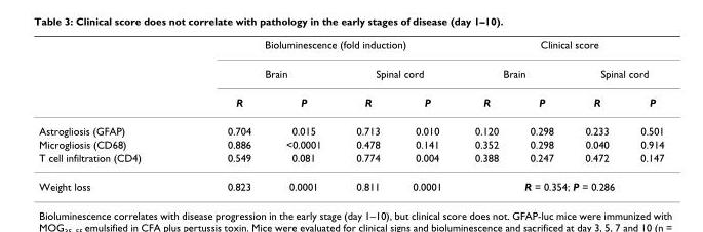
<table><thead><tr><td rowspan="3"></td><td colspan="4">Bioluminescence (fold induction)</td><td colspan="4">Clinical score</td></tr><tr><td colspan="2">Brain</td><td colspan="2">Spinal cord</td><td colspan="2">Brain</td><td colspan="2">Spinal cord</td></tr><tr><td>R</td><td>P</td><td>R</td><td>P</td><td>R</td><td>P</td><td>R</td><td>P</td></tr></thead><tbody><tr><td>Astrogliosis (GFAP)</td><td>0.704</td><td>0.015</td><td>0.713</td><td>0.010</td><td>0.120</td><td>0.298</td><td>0.233</td><td>0.501</td></tr><tr><td>Microgliosis (CD68)</td><td>0.886</td><td>&lt;0.0001</td><td>0.478</td><td>0.141</td><td>0.352</td><td>0.298</td><td>0.040</td><td>0.914</td></tr><tr><td>T cell infiltration (CD4)</td><td>0.549</td><td>0.081</td><td>0.774</td><td>0.004</td><td>0.388</td><td>0.247</td><td>0.472</td><td>0.147</td></tr><tr><td>Weight loss</td><td>0.823</td><td>0.0001</td><td>0.811</td><td>0.0001</td><td colspan="4">R = 0.354; P = 0.286</td></tr></tbody></table>